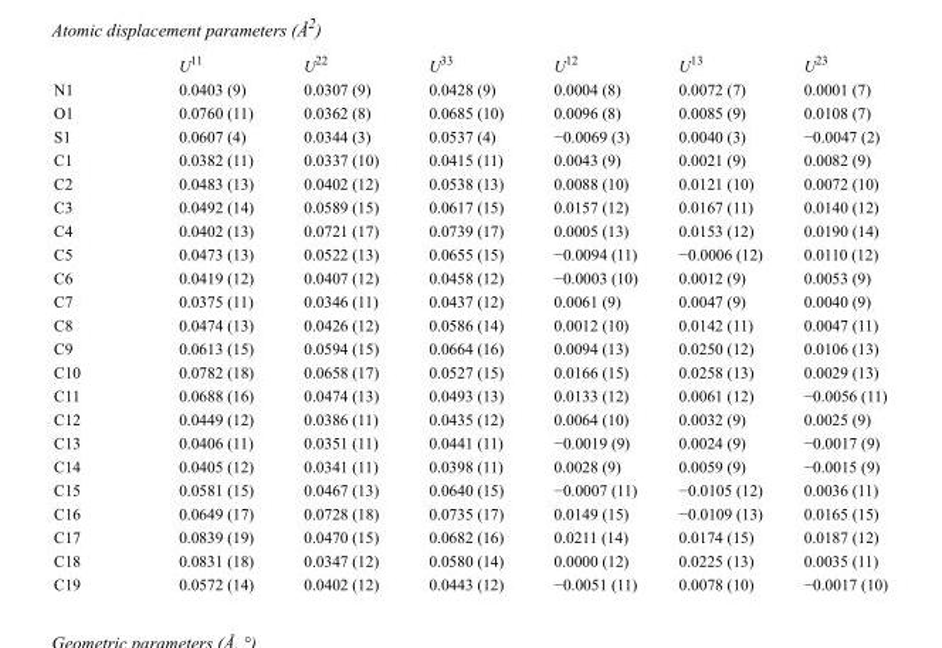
<table><thead><tr><td></td><td>U<sup>11</sup></td><td>U<sup>22</sup></td><td>U<sup>33</sup></td><td>U<sup>12</sup></td><td>U<sup>13</sup></td><td>U<sup>23</sup></td></tr></thead><tbody><tr><td>N1</td><td>0.0403 (9)</td><td>0.0307 (9)</td><td>0.0428 (9)</td><td>0.0004 (8)</td><td>0.0072 (7)</td><td>0.0001 (7)</td></tr><tr><td>O1</td><td>0.0760 (11)</td><td>0.0362 (8)</td><td>0.0685 (10)</td><td>0.0096 (8)</td><td>0.0085 (9)</td><td>0.0108 (7)</td></tr><tr><td>S1</td><td>0.0607 (4)</td><td>0.0344 (3)</td><td>0.0537 (4)</td><td>−0.0069 (3)</td><td>0.0040 (3)</td><td>−0.0047 (2)</td></tr><tr><td>C1</td><td>0.0382 (11)</td><td>0.0337 (10)</td><td>0.0415 (11)</td><td>0.0043 (9)</td><td>0.0021 (9)</td><td>0.0082 (9)</td></tr><tr><td>C2</td><td>0.0483 (13)</td><td>0.0402 (12)</td><td>0.0538 (13)</td><td>0.0088 (10)</td><td>0.0121 (10)</td><td>0.0072 (10)</td></tr><tr><td>C3</td><td>0.0492 (14)</td><td>0.0589 (15)</td><td>0.0617 (15)</td><td>0.0157 (12)</td><td>0.0167 (11)</td><td>0.0140 (12)</td></tr><tr><td>C4</td><td>0.0402 (13)</td><td>0.0721 (17)</td><td>0.0739 (17)</td><td>0.0005 (13)</td><td>0.0153 (12)</td><td>0.0190 (14)</td></tr><tr><td>C5</td><td>0.0473 (13)</td><td>0.0522 (13)</td><td>0.0655 (15)</td><td>−0.0094 (11)</td><td>−0.0006 (12)</td><td>0.0110 (12)</td></tr><tr><td>C6</td><td>0.0419 (12)</td><td>0.0407 (12)</td><td>0.0458 (12)</td><td>−0.0003 (10)</td><td>0.0012 (9)</td><td>0.0053 (9)</td></tr><tr><td>C7</td><td>0.0375 (11)</td><td>0.0346 (11)</td><td>0.0437 (12)</td><td>0.0061 (9)</td><td>0.0047 (9)</td><td>0.0040 (9)</td></tr><tr><td>C8</td><td>0.0474 (13)</td><td>0.0426 (12)</td><td>0.0586 (14)</td><td>0.0012 (10)</td><td>0.0142 (11)</td><td>0.0047 (11)</td></tr><tr><td>C9</td><td>0.0613 (15)</td><td>0.0594 (15)</td><td>0.0664 (16)</td><td>0.0094 (13)</td><td>0.0250 (12)</td><td>0.0106 (13)</td></tr><tr><td>C10</td><td>0.0782 (18)</td><td>0.0658 (17)</td><td>0.0527 (15)</td><td>0.0166 (15)</td><td>0.0258 (13)</td><td>0.0029 (13)</td></tr><tr><td>C11</td><td>0.0688 (16)</td><td>0.0474 (13)</td><td>0.0493 (13)</td><td>0.0133 (12)</td><td>0.0061 (12)</td><td>−0.0056 (11)</td></tr><tr><td>C12</td><td>0.0449 (12)</td><td>0.0386 (11)</td><td>0.0435 (12)</td><td>0.0064 (10)</td><td>0.0032 (9)</td><td>0.0025 (9)</td></tr><tr><td>C13</td><td>0.0406 (11)</td><td>0.0351 (11)</td><td>0.0441 (11)</td><td>−0.0019 (9)</td><td>0.0024 (9)</td><td>−0.0017 (9)</td></tr><tr><td>C14</td><td>0.0405 (12)</td><td>0.0341 (11)</td><td>0.0398 (11)</td><td>0.0028 (9)</td><td>0.0059 (9)</td><td>−0.0015 (9)</td></tr><tr><td>C15</td><td>0.0581 (15)</td><td>0.0467 (13)</td><td>0.0640 (15)</td><td>−0.0007 (11)</td><td>−0.0105 (12)</td><td>0.0036 (11)</td></tr><tr><td>C16</td><td>0.0649 (17)</td><td>0.0728 (18)</td><td>0.0735 (17)</td><td>0.0149 (15)</td><td>−0.0109 (13)</td><td>0.0165 (15)</td></tr><tr><td>C17</td><td>0.0839 (19)</td><td>0.0470 (15)</td><td>0.0682 (16)</td><td>0.0211 (14)</td><td>0.0174 (15)</td><td>0.0187 (12)</td></tr><tr><td>C18</td><td>0.0831 (18)</td><td>0.0347 (12)</td><td>0.0580 (14)</td><td>0.0000 (12)</td><td>0.0225 (13)</td><td>0.0035 (11)</td></tr><tr><td>C19</td><td>0.0572 (14)</td><td>0.0402 (12)</td><td>0.0443 (12)</td><td>−0.0051 (11)</td><td>0.0078 (10)</td><td>−0.0017 (10)</td></tr></tbody></table>